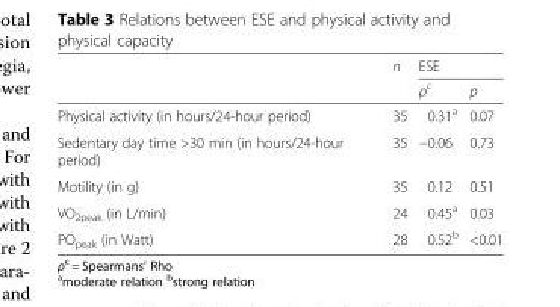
<table><thead><tr><td rowspan="2"></td><td rowspan="2">n</td><td colspan="2">ESE</td></tr><tr><td>ρ<sup>c</sup></td><td>p</td></tr></thead><tbody><tr><td>Physical activity (in hours/24-hour period)</td><td>35</td><td>0.31<sup>a</sup></td><td>0.07</td></tr><tr><td>Sedentary day time &gt;30 min (in hours/24-hour period)</td><td>35</td><td>−0.06</td><td>0.73</td></tr><tr><td>Motility (in g)</td><td>35</td><td>0.12</td><td>0.51</td></tr><tr><td>VO<sub>2peak</sub> (in L/min)</td><td>24</td><td>0.45<sup>a</sup></td><td>0.03</td></tr><tr><td>PO<sub>peak</sub> (in Watt)</td><td>28</td><td>0.52<sup>b</sup></td><td>&lt;0.01</td></tr></tbody></table>